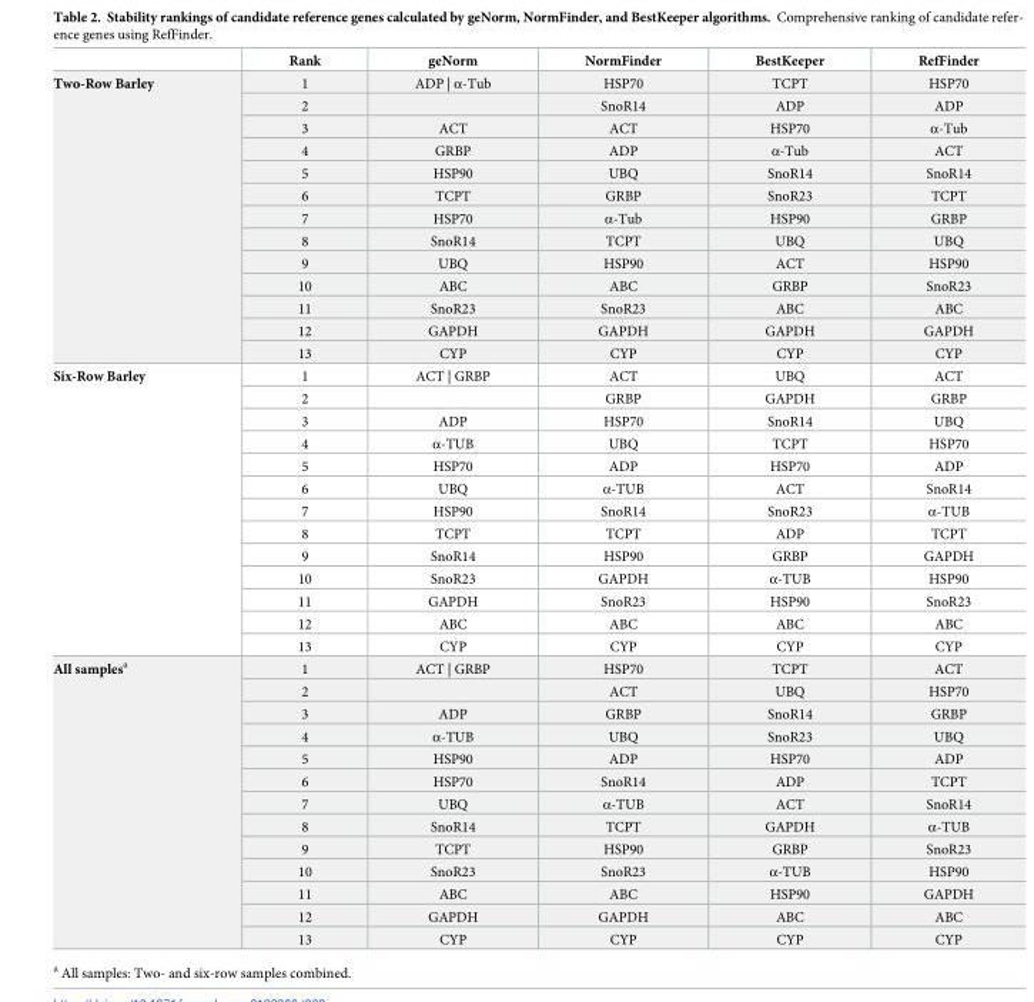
<table><thead><tr><td></td><td>Rank</td><td>geNorm</td><td>NormFinder</td><td>BestKeeper</td><td>RefFinder</td></tr></thead><tbody><tr><td rowspan="13">Two-Row Barley</td><td>1</td><td>ADP | α-Tub</td><td>HSP70</td><td>TCPT</td><td>HSP70</td></tr><tr><td>2</td><td></td><td>SnoR14</td><td>ADP</td><td>ADP</td></tr><tr><td>3</td><td>ACT</td><td>ACT</td><td>HSP70</td><td>α-Tub</td></tr><tr><td>4</td><td>GRBP</td><td>ADP</td><td>α-Tub</td><td>ACT</td></tr><tr><td>5</td><td>HSP90</td><td>UBQ</td><td>SnoR14</td><td>SnoR14</td></tr><tr><td>6</td><td>TCPT</td><td>GRBP</td><td>SnoR23</td><td>TCPT</td></tr><tr><td>7</td><td>HSP70</td><td>α-Tub</td><td>HSP90</td><td>GRBP</td></tr><tr><td>8</td><td>SnoR14</td><td>TCPT</td><td>UBQ</td><td>UBQ</td></tr><tr><td>9</td><td>UBQ</td><td>HSP90</td><td>ACT</td><td>HSP90</td></tr><tr><td>10</td><td>ABC</td><td>ABC</td><td>GRBP</td><td>SnoR23</td></tr><tr><td>11</td><td>SnoR23</td><td>SnoR23</td><td>ABC</td><td>ABC</td></tr><tr><td>12</td><td>GAPDH</td><td>GAPDH</td><td>GAPDH</td><td>GAPDH</td></tr><tr><td>13</td><td>CYP</td><td>CYP</td><td>CYP</td><td>CYP</td></tr><tr><td rowspan="13">Six-Row Barley</td><td>1</td><td>ACT | GRBP</td><td>ACT</td><td>UBQ</td><td>ACT</td></tr><tr><td>2</td><td></td><td>GRBP</td><td>GAPDH</td><td>GRBP</td></tr><tr><td>3</td><td>ADP</td><td>HSP70</td><td>SnoR14</td><td>UBQ</td></tr><tr><td>4</td><td>α-TUB</td><td>UBQ</td><td>TCPT</td><td>HSP70</td></tr><tr><td>5</td><td>HSP70</td><td>ADP</td><td>HSP70</td><td>ADP</td></tr><tr><td>6</td><td>UBQ</td><td>α-TUB</td><td>ACT</td><td>SnoR14</td></tr><tr><td>7</td><td>HSP90</td><td>SnoR14</td><td>SnoR23</td><td>α-TUB</td></tr><tr><td>8</td><td>TCPT</td><td>TCPT</td><td>ADP</td><td>TCPT</td></tr><tr><td>9</td><td>SnoR14</td><td>HSP90</td><td>GRBP</td><td>GAPDH</td></tr><tr><td>10</td><td>SnoR23</td><td>GAPDH</td><td>α-TUB</td><td>HSP90</td></tr><tr><td>11</td><td>GAPDH</td><td>SnoR23</td><td>HSP90</td><td>SnoR23</td></tr><tr><td>12</td><td>ABC</td><td>ABC</td><td>ABC</td><td>ABC</td></tr><tr><td>13</td><td>CYP</td><td>CYP</td><td>CYP</td><td>CYP</td></tr><tr><td rowspan="13">All samples<sup>a</sup></td><td>1</td><td>ACT | GRBP</td><td>HSP70</td><td>TCPT</td><td>ACT</td></tr><tr><td>2</td><td></td><td>ACT</td><td>UBQ</td><td>HSP70</td></tr><tr><td>3</td><td>ADP</td><td>GRBP</td><td>SnoR14</td><td>GRBP</td></tr><tr><td>4</td><td>α-TUB</td><td>UBQ</td><td>SnoR23</td><td>UBQ</td></tr><tr><td>5</td><td>HSP90</td><td>ADP</td><td>HSP70</td><td>ADP</td></tr><tr><td>6</td><td>HSP70</td><td>SnoR14</td><td>ADP</td><td>TCPT</td></tr><tr><td>7</td><td>UBQ</td><td>α-TUB</td><td>ACT</td><td>SnoR14</td></tr><tr><td>8</td><td>SnoR14</td><td>TCPT</td><td>GAPDH</td><td>α-TUB</td></tr><tr><td>9</td><td>TCPT</td><td>HSP90</td><td>GRBP</td><td>SnoR23</td></tr><tr><td>10</td><td>SnoR23</td><td>SnoR23</td><td>α-TUB</td><td>HSP90</td></tr><tr><td>11</td><td>ABC</td><td>ABC</td><td>HSP90</td><td>GAPDH</td></tr><tr><td>12</td><td>GAPDH</td><td>GAPDH</td><td>ABC</td><td>ABC</td></tr><tr><td>13</td><td>CYP</td><td>CYP</td><td>CYP</td><td>CYP</td></tr></tbody></table>